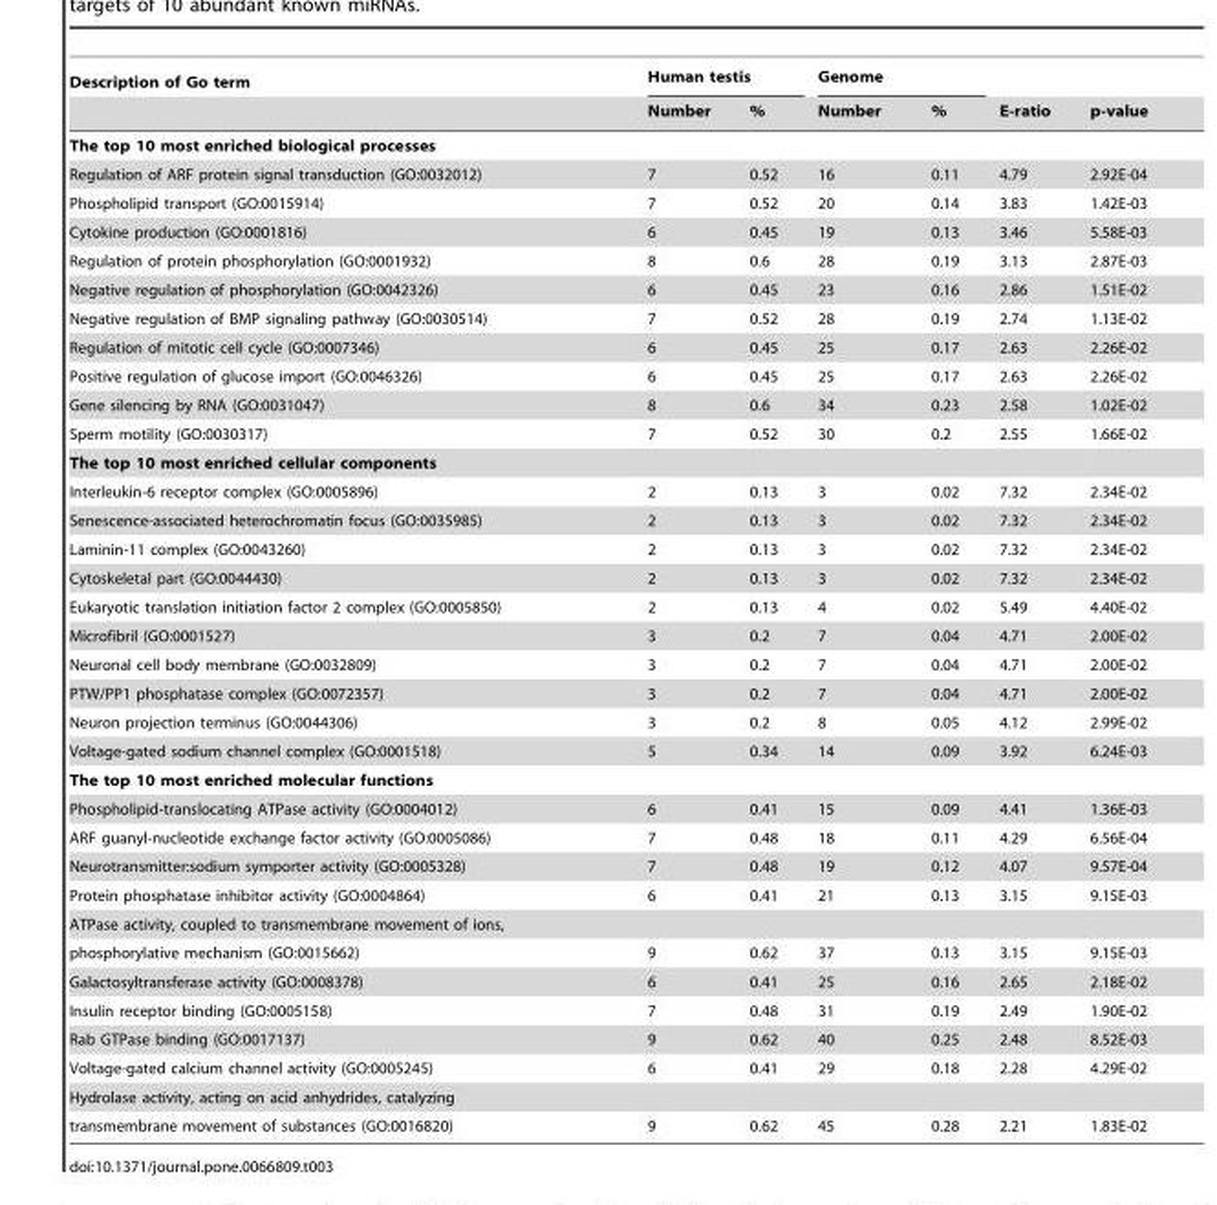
<table><thead><tr><td rowspan="2">Description of Go term</td><td colspan="2">Human testis</td><td colspan="2">Genome</td><td rowspan="2">E-ratio</td><td rowspan="2">p-value</td></tr><tr><td>Number</td><td>%</td><td>Number</td><td>%</td></tr></thead><tbody><tr><td colspan="7">The top 10 most enriched biological processes</td></tr><tr><td>Regulation of ARF protein signal transduction (GO:0032012)</td><td>7</td><td>0.52</td><td>16</td><td>0.11</td><td>4.79</td><td>2.92E-04</td></tr><tr><td>Phospholipid transport (GO:0015914)</td><td>7</td><td>0.52</td><td>20</td><td>0.14</td><td>3.83</td><td>1.42E-03</td></tr><tr><td>Cytokine production (GO:0001816)</td><td>6</td><td>0.45</td><td>19</td><td>0.13</td><td>3.46</td><td>5.58E-03</td></tr><tr><td>Regulation of protein phosphorylation (GO:0001932)</td><td>8</td><td>0.6</td><td>28</td><td>0.19</td><td>3.13</td><td>2.87E-03</td></tr><tr><td>Negative regulation of phosphorylation (GO:0042326)</td><td>6</td><td>0.45</td><td>23</td><td>0.16</td><td>2.86</td><td>1.51E-02</td></tr><tr><td>Negative regulation of BMP signaling pathway (GO:0030514)</td><td>7</td><td>0.52</td><td>28</td><td>0.19</td><td>2.74</td><td>1.13E-02</td></tr><tr><td>Regulation of mitotic cell cycle (GO:0007346)</td><td>6</td><td>0.45</td><td>25</td><td>0.17</td><td>2.63</td><td>2.26E-02</td></tr><tr><td>Positive regulation of glucose import (GO:0046326)</td><td>6</td><td>0.45</td><td>25</td><td>0.17</td><td>2.63</td><td>2.26E-02</td></tr><tr><td>Gene silencing by RNA (GO:0031047)</td><td>8</td><td>0.6</td><td>34</td><td>0.23</td><td>2.58</td><td>1.02E-02</td></tr><tr><td>Sperm motility (GO:0030317)</td><td>7</td><td>0.52</td><td>30</td><td>0.2</td><td>2.55</td><td>1.66E-02</td></tr><tr><td colspan="7">The top 10 most enriched cellular components</td></tr><tr><td>Interleukin-6 receptor complex (GO:0005896)</td><td>2</td><td>0.13</td><td>3</td><td>0.02</td><td>7.32</td><td>2.34E-02</td></tr><tr><td>Senescence-associated heterochromatin focus (GO:0035985)</td><td>2</td><td>0.13</td><td>3</td><td>0.02</td><td>7.32</td><td>2.34E-02</td></tr><tr><td>Laminin-11 complex (GO:0043260)</td><td>2</td><td>0.13</td><td>3</td><td>0.02</td><td>7.32</td><td>2.34E-02</td></tr><tr><td>Cytoskeletal part (GO:0044430)</td><td>2</td><td>0.13</td><td>3</td><td>0.02</td><td>7.32</td><td>2.34E-02</td></tr><tr><td>Eukaryotic translation initiation factor 2 complex (GO:0005850)</td><td>2</td><td>0.13</td><td>4</td><td>0.02</td><td>5.49</td><td>4.40E-02</td></tr><tr><td>Microfibril (GO:0001527)</td><td>3</td><td>0.2</td><td>7</td><td>0.04</td><td>4.71</td><td>2.00E-02</td></tr><tr><td>Neuronal cell body membrane (GO:0032809)</td><td>3</td><td>0.2</td><td>7</td><td>0.04</td><td>4.71</td><td>2.00E-02</td></tr><tr><td>PTW/PP1 phosphatase complex (GO:0072357)</td><td>3</td><td>0.2</td><td>7</td><td>0.04</td><td>4.71</td><td>2.00E-02</td></tr><tr><td>Neuron projection terminus (GO:0044306)</td><td>3</td><td>0.2</td><td>8</td><td>0.05</td><td>4.12</td><td>2.99E-02</td></tr><tr><td>Voltage-gated sodium channel complex (GO:0001518)</td><td>5</td><td>0.34</td><td>14</td><td>0.09</td><td>3.92</td><td>6.24E-03</td></tr><tr><td colspan="7">The top 10 most enriched molecular functions</td></tr><tr><td>Phospholipid-translocating ATPase activity (GO:0004012)</td><td>6</td><td>0.41</td><td>15</td><td>0.09</td><td>4.41</td><td>1.36E-03</td></tr><tr><td>ARF guanyl-nucleotide exchange factor activity (GO:0005086)</td><td>7</td><td>0.48</td><td>18</td><td>0.11</td><td>4.29</td><td>6.56E-04</td></tr><tr><td>Neurotransmitter:sodium symporter activity (GO:0005328)</td><td>7</td><td>0.48</td><td>19</td><td>0.12</td><td>4.07</td><td>9.57E-04</td></tr><tr><td>Protein phosphatase inhibitor activity (GO:0004864)</td><td>6</td><td>0.41</td><td>21</td><td>0.13</td><td>3.15</td><td>9.15E-03</td></tr><tr><td colspan="7">ATPase activity, coupled to transmembrane movement of ions,</td></tr><tr><td>phosphorylative mechanism (GO:0015662)</td><td>9</td><td>0.62</td><td>37</td><td>0.13</td><td>3.15</td><td>9.15E-03</td></tr><tr><td>Galactosyltransferase activity (GO:0008378)</td><td>6</td><td>0.41</td><td>25</td><td>0.16</td><td>2.65</td><td>2.18E-02</td></tr><tr><td>Insulin receptor binding (GO:0005158)</td><td>7</td><td>0.48</td><td>31</td><td>0.19</td><td>2.49</td><td>1.90E-02</td></tr><tr><td>Rab GTPase binding (GO:0017137)</td><td>9</td><td>0.62</td><td>40</td><td>0.25</td><td>2.48</td><td>8.52E-03</td></tr><tr><td>Voltage-gated calcium channel activity (GO:0005245)</td><td>6</td><td>0.41</td><td>29</td><td>0.18</td><td>2.28</td><td>4.29E-02</td></tr><tr><td colspan="7">Hydrolase activity, acting on acid anhydrides, catalyzing</td></tr><tr><td>transmembrane movement of substances (GO:0016820)</td><td>9</td><td>0.62</td><td>45</td><td>0.28</td><td>2.21</td><td>1.83E-02</td></tr></tbody></table>